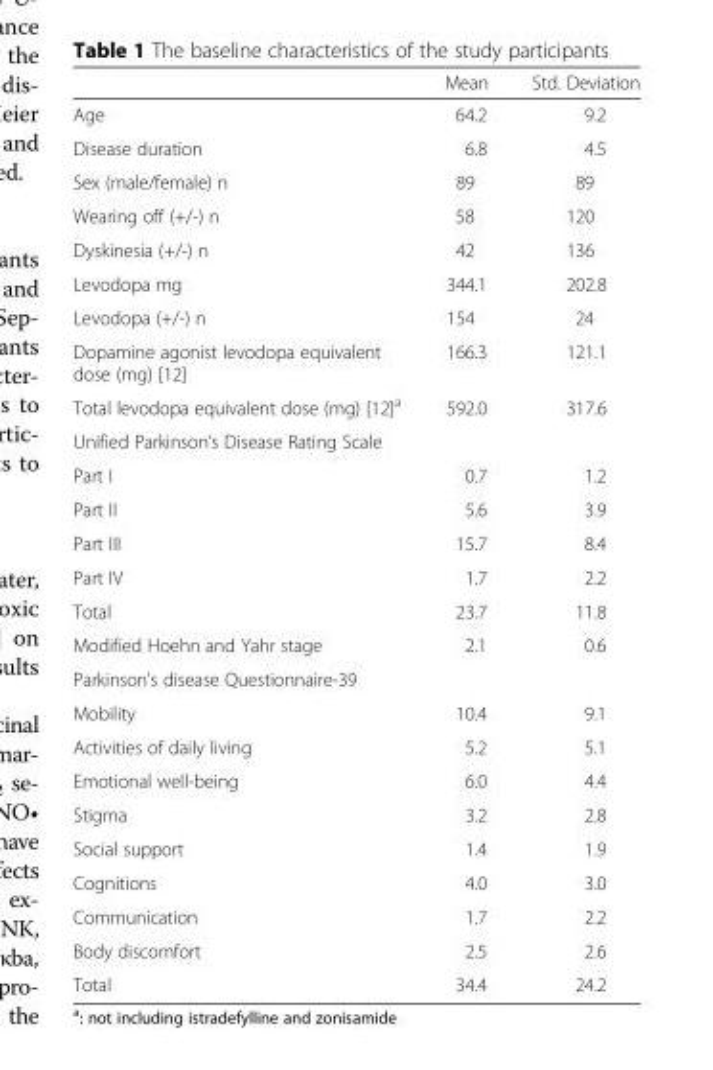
<table><thead><tr><td></td><td>Mean</td><td>Std. Deviation</td></tr></thead><tbody><tr><td>Age</td><td>64.2</td><td>9.2</td></tr><tr><td>Disease duration</td><td>6.8</td><td>4.5</td></tr><tr><td>Sex (male/female) n</td><td>89</td><td>89</td></tr><tr><td>Wearing off (+/-) n</td><td>58</td><td>120</td></tr><tr><td>Dyskinesia (+/-) n</td><td>42</td><td>136</td></tr><tr><td>Levodopa mg</td><td>344.1</td><td>202.8</td></tr><tr><td>Levodopa (+/-) n</td><td>154</td><td>24</td></tr><tr><td>Dopamine agonist levodopa equivalent dose (mg) [12]</td><td>166.3</td><td>121.1</td></tr><tr><td>Total levodopa equivalent dose (mg) [12]<sup>a</sup></td><td>592.0</td><td>317.6</td></tr><tr><td colspan="3">Unified Parkinson’s Disease Rating Scale</td></tr><tr><td>Part I</td><td>0.7</td><td>1.2</td></tr><tr><td>Part II</td><td>5.6</td><td>3.9</td></tr><tr><td>Part III</td><td>15.7</td><td>8.4</td></tr><tr><td>Part IV</td><td>1.7</td><td>2.2</td></tr><tr><td>Total</td><td>23.7</td><td>11.8</td></tr><tr><td>Modified Hoehn and Yahr stage</td><td>2.1</td><td>0.6</td></tr><tr><td colspan="3">Parkinson’s disease Questionnaire-39</td></tr><tr><td>Mobility</td><td>10.4</td><td>9.1</td></tr><tr><td>Activities of daily living</td><td>5.2</td><td>5.1</td></tr><tr><td>Emotional well-being</td><td>6.0</td><td>4.4</td></tr><tr><td>Stigma</td><td>3.2</td><td>2.8</td></tr><tr><td>Social support</td><td>1.4</td><td>1.9</td></tr><tr><td>Cognitions</td><td>4.0</td><td>3.0</td></tr><tr><td>Communication</td><td>1.7</td><td>2.2</td></tr><tr><td>Body discomfort</td><td>2.5</td><td>2.6</td></tr><tr><td>Total</td><td>34.4</td><td>24.2</td></tr></tbody></table>